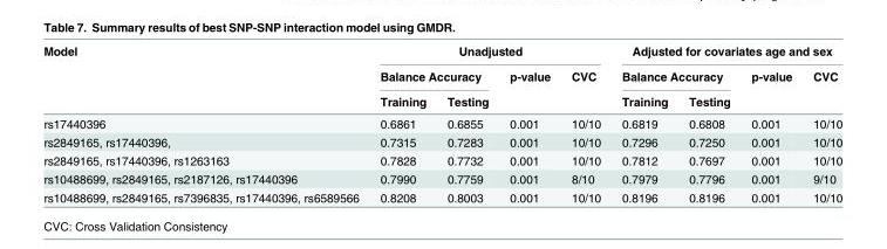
<table><thead><tr><td rowspan="3">Model</td><td colspan="4">Unadjusted</td><td colspan="4">Adjusted for covariates age and sex</td></tr><tr><td colspan="2">Balance Accuracy</td><td rowspan="2">p-value</td><td rowspan="2">CVC</td><td colspan="2">Balance Accuracy</td><td rowspan="2">p-value</td><td rowspan="2">CVC</td></tr><tr><td>Training</td><td>Testing</td><td>Training</td><td>Testing</td></tr></thead><tbody><tr><td>rs17440396</td><td>0.6861</td><td>0.6855</td><td>0.001</td><td>10/10</td><td>0.6819</td><td>0.6808</td><td>0.001</td><td>10/10</td></tr><tr><td>rs2849165, rs17440396,</td><td>0.7315</td><td>0.7283</td><td>0.001</td><td>10/10</td><td>0.7296</td><td>0.7250</td><td>0.001</td><td>10/10</td></tr><tr><td>rs2849165, rs17440396, rs1263163</td><td>0.7828</td><td>0.7732</td><td>0.001</td><td>10/10</td><td>0.7812</td><td>0.7697</td><td>0.001</td><td>10/10</td></tr><tr><td>rs10488699, rs2849165, rs2187126, rs17440396</td><td>0.7990</td><td>0.7759</td><td>0.001</td><td>8/10</td><td>0.7979</td><td>0.7796</td><td>0.001</td><td>9/10</td></tr><tr><td>rs10488699, rs2849165, rs7396835, rs17440396, rs6589566</td><td>0.8208</td><td>0.8003</td><td>0.001</td><td>10/10</td><td>0.8196</td><td>0.8196</td><td>0.001</td><td>10/10</td></tr></tbody></table>